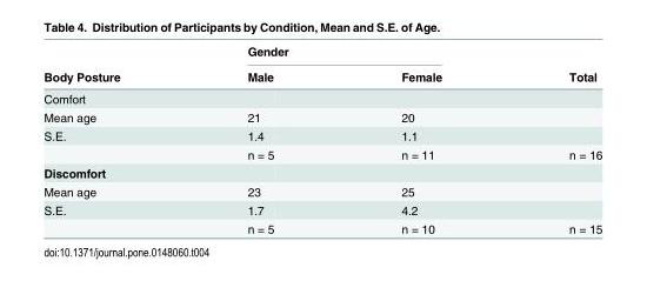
<table><thead><tr><td rowspan="2">Body Posture</td><td colspan="2">Gender</td><td rowspan="2">Total</td></tr><tr><td>Male</td><td>Female</td></tr></thead><tbody><tr><td colspan="4">Comfort</td></tr><tr><td>Mean age</td><td>21</td><td>20</td><td></td></tr><tr><td rowspan="2">S.E.</td><td>1.4</td><td>1.1</td><td></td></tr><tr><td>n = 5</td><td>n = 11</td><td>n = 16</td></tr><tr><td colspan="4">Discomfort</td></tr><tr><td>Mean age</td><td>23</td><td>25</td><td></td></tr><tr><td rowspan="2">S.E.</td><td>1.7</td><td>4.2</td><td></td></tr><tr><td>n = 5</td><td>n = 10</td><td>n = 15</td></tr></tbody></table>